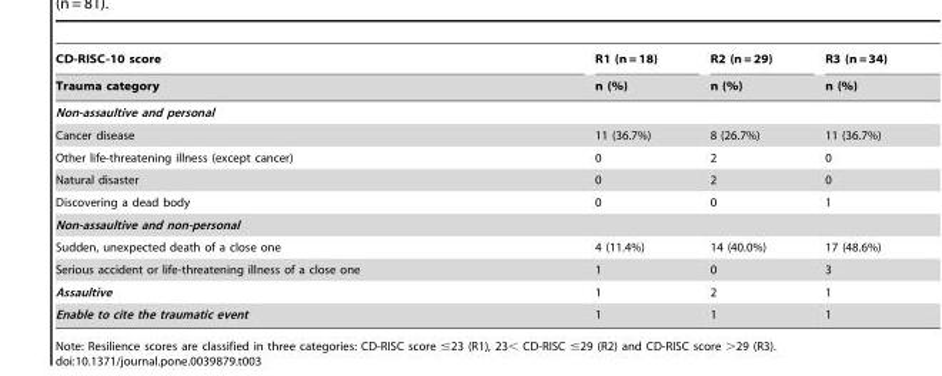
<table><thead><tr><td rowspan="2">CD-RISC-10 score Trauma category</td><td rowspan="2">R1 (n = 18) n (%)</td><td rowspan="2">R2 (n = 29) n (%)</td><td rowspan="2">R3 (n = 34) n (%)</td></tr><tr></tr></thead><tbody><tr><td colspan="4">Non-assaultive and personal</td></tr><tr><td>Cancer disease</td><td>11 (36.7%)</td><td>8 (26.7%)</td><td>11 (36.7%)</td></tr><tr><td>Other life-threatening illness (except cancer)</td><td>0</td><td>2</td><td>0</td></tr><tr><td>Natural disaster</td><td>0</td><td>2</td><td>0</td></tr><tr><td>Discovering a dead body</td><td>0</td><td>0</td><td>1</td></tr><tr><td colspan="4">Non-assaultive and non-personal</td></tr><tr><td>Sudden, unexpected death of a close one</td><td>4 (11.4%)</td><td>14 (40.0%)</td><td>17 (48.6%)</td></tr><tr><td>Serious accident or life-threatening illness of a close one</td><td>1</td><td>0</td><td>3</td></tr><tr><td>Assaultive</td><td>1</td><td>2</td><td>1</td></tr><tr><td>Enable to cite the traumatic event</td><td>1</td><td>1</td><td>1</td></tr></tbody></table>